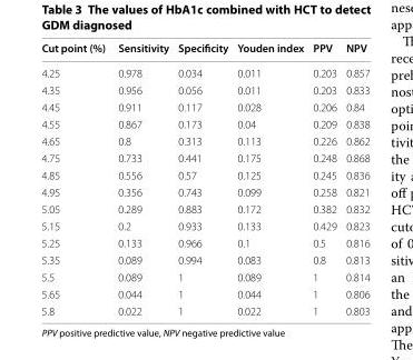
<table><thead><tr><td>Cut point (%)</td><td>Sensitivity</td><td>Specificity</td><td>Youden index</td><td>PPV</td><td>NPV</td></tr></thead><tbody><tr><td>4.25</td><td>0.978</td><td>0.034</td><td>0.011</td><td>0.203</td><td>0.857</td></tr><tr><td>4.35</td><td>0.956</td><td>0.056</td><td>0.011</td><td>0.203</td><td>0.833</td></tr><tr><td>4.45</td><td>0.911</td><td>0.117</td><td>0.028</td><td>0.206</td><td>0.84</td></tr><tr><td>4.55</td><td>0.867</td><td>0.173</td><td>0.04</td><td>0.209</td><td>0.838</td></tr><tr><td>4.65</td><td>0.8</td><td>0.313</td><td>0.113</td><td>0.226</td><td>0.862</td></tr><tr><td>4.75</td><td>0.733</td><td>0.441</td><td>0.175</td><td>0.248</td><td>0.868</td></tr><tr><td>4.85</td><td>0.556</td><td>0.57</td><td>0.125</td><td>0.245</td><td>0.836</td></tr><tr><td>4.95</td><td>0.356</td><td>0.743</td><td>0.099</td><td>0.258</td><td>0.821</td></tr><tr><td>5.05</td><td>0.289</td><td>0.883</td><td>0.172</td><td>0.382</td><td>0.832</td></tr><tr><td>5.15</td><td>0.2</td><td>0.933</td><td>0.133</td><td>0.429</td><td>0.823</td></tr><tr><td>5.25</td><td>0.133</td><td>0.966</td><td>0.1</td><td>0.5</td><td>0.816</td></tr><tr><td>5.35</td><td>0.089</td><td>0.994</td><td>0.083</td><td>0.8</td><td>0.813</td></tr><tr><td>5.5</td><td>0.089</td><td>1</td><td>0.089</td><td>1</td><td>0.814</td></tr><tr><td>5.65</td><td>0.044</td><td>1</td><td>0.044</td><td>1</td><td>0.806</td></tr><tr><td>5.8</td><td>0.022</td><td>1</td><td>0.022</td><td>1</td><td>0.803</td></tr></tbody></table>